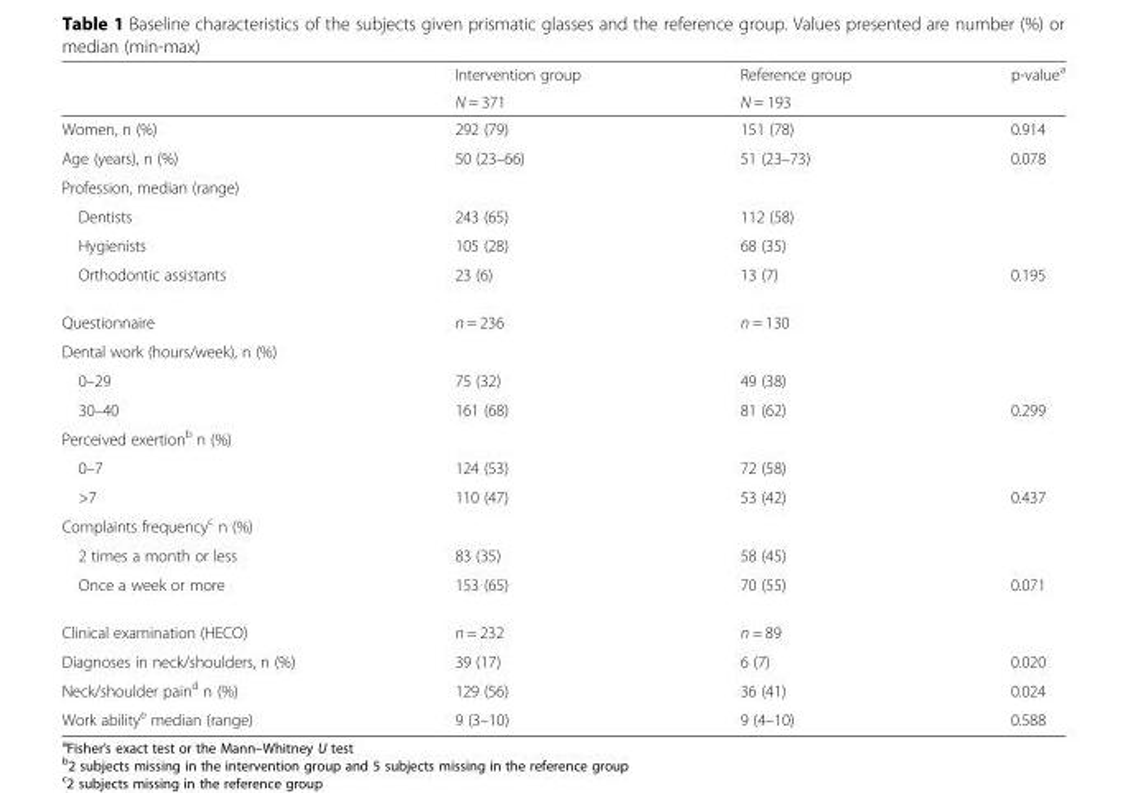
<table><thead><tr><td rowspan="2"></td><td rowspan="2">Intervention group N = 371</td><td rowspan="2">Reference group N = 193</td><td rowspan="2">p-value<sup>a</sup></td></tr><tr></tr></thead><tbody><tr><td>Women, n (%)</td><td>292 (79)</td><td>151 (78)</td><td>0.914</td></tr><tr><td>Age (years), n (%)</td><td>50 (23–66)</td><td>51 (23–73)</td><td>0.078</td></tr><tr><td colspan="4">Profession, median (range)</td></tr><tr><td>Dentists</td><td>243 (65)</td><td>112 (58)</td><td></td></tr><tr><td>Hygienists</td><td>105 (28)</td><td>68 (35)</td><td></td></tr><tr><td>Orthodontic assistants</td><td>23 (6)</td><td>13 (7)</td><td>0.195</td></tr><tr><td>Questionnaire</td><td>n = 236</td><td>n = 130</td><td></td></tr><tr><td colspan="4">Dental work (hours/week), n (%)</td></tr><tr><td>0–29</td><td>75 (32)</td><td>49 (38)</td><td></td></tr><tr><td>30–40</td><td>161 (68)</td><td>81 (62)</td><td>0.299</td></tr><tr><td colspan="4">Perceived exertion<sup>b</sup> n (%)</td></tr><tr><td>0–7</td><td>124 (53)</td><td>72 (58)</td><td></td></tr><tr><td>&gt;7</td><td>110 (47)</td><td>53 (42)</td><td>0.437</td></tr><tr><td colspan="4">Complaints frequency<sup>c</sup> n (%)</td></tr><tr><td>2 times a month or less</td><td>83 (35)</td><td>58 (45)</td><td></td></tr><tr><td>Once a week or more</td><td>153 (65)</td><td>70 (55)</td><td>0.071</td></tr><tr><td>Clinical examination (HECO)</td><td>n = 232</td><td>n = 89</td><td></td></tr><tr><td>Diagnoses in neck/shoulders, n (%)</td><td>39 (17)</td><td>6 (7)</td><td>0.020</td></tr><tr><td>Neck/shoulder pain<sup>d</sup> n (%)</td><td>129 (56)</td><td>36 (41)</td><td>0.024</td></tr><tr><td>Work ability<sup>e</sup> median (range)</td><td>9 (3–10)</td><td>9 (4–10)</td><td>0.588</td></tr></tbody></table>